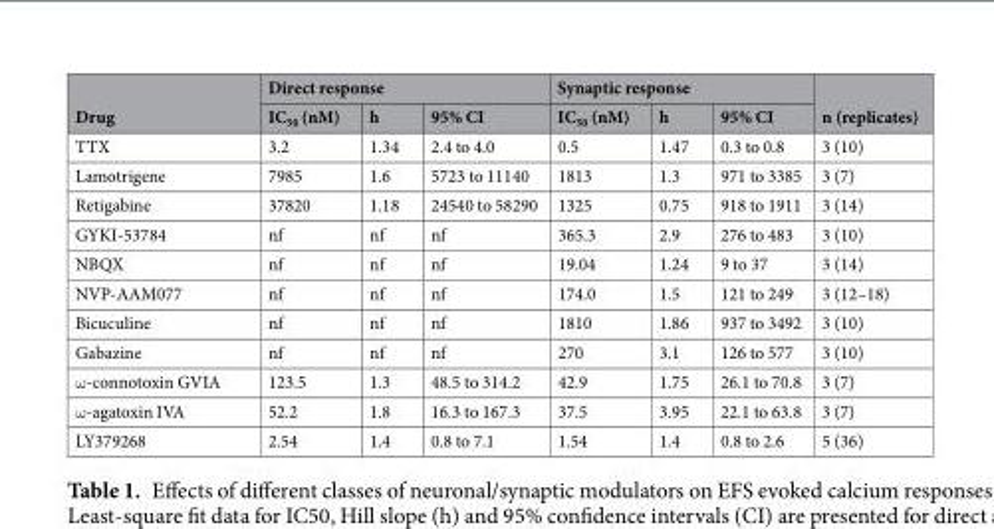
<table><thead><tr><td rowspan="2">Drug</td><td colspan="3">Direct response</td><td colspan="3">Synaptic response</td><td rowspan="2">n (replicates)</td></tr><tr><td>IC<sub>50</sub> (nM)</td><td>h</td><td>95% CI</td><td>IC<sub>50</sub> (nM)</td><td>h</td><td>95% CI</td></tr></thead><tbody><tr><td>TTX</td><td>3.2</td><td>1.34</td><td>2.4 to 4.0</td><td>0.5</td><td>1.47</td><td>0.3 to 0.8</td><td>3 (10)</td></tr><tr><td>Lamotrigene</td><td>7985</td><td>1.6</td><td>5723 to 11140</td><td>1813</td><td>1.3</td><td>971 to 3385</td><td>3 (7)</td></tr><tr><td>Retigabine</td><td>37820</td><td>1.18</td><td>24540 to 58290</td><td>1325</td><td>0.75</td><td>918 to 1911</td><td>3 (14)</td></tr><tr><td>GYKI-53784</td><td>nf</td><td>nf</td><td>nf</td><td>365.3</td><td>2.9</td><td>276 to 483</td><td>3 (10)</td></tr><tr><td>NBQX</td><td>nf</td><td>nf</td><td>nf</td><td>19.04</td><td>1.24</td><td>9 to 37</td><td>3 (14)</td></tr><tr><td>NVP-AAM077</td><td>nf</td><td>nf</td><td>nf</td><td>174.0</td><td>1.5</td><td>121 to 249</td><td>3 (12–18)</td></tr><tr><td>Bicuculine</td><td>nf</td><td>nf</td><td>nf</td><td>1810</td><td>1.86</td><td>937 to 3492</td><td>3 (10)</td></tr><tr><td>Gabazine</td><td>nf</td><td>nf</td><td>nf</td><td>270</td><td>3.1</td><td>126 to 577</td><td>3 (10)</td></tr><tr><td>ω-connotoxin GVIA</td><td>123.5</td><td>1.3</td><td>48.5 to 314.2</td><td>42.9</td><td>1.75</td><td>26.1 to 70.8</td><td>3 (7)</td></tr><tr><td>ω-agatoxin IVA</td><td>52.2</td><td>1.8</td><td>16.3 to 167.3</td><td>37.5</td><td>3.95</td><td>22.1 to 63.8</td><td>3 (7)</td></tr><tr><td>LY379268</td><td>2.54</td><td>1.4</td><td>0.8 to 7.1</td><td>1.54</td><td>1.4</td><td>0.8 to 2.6</td><td>5 (36)</td></tr></tbody></table>